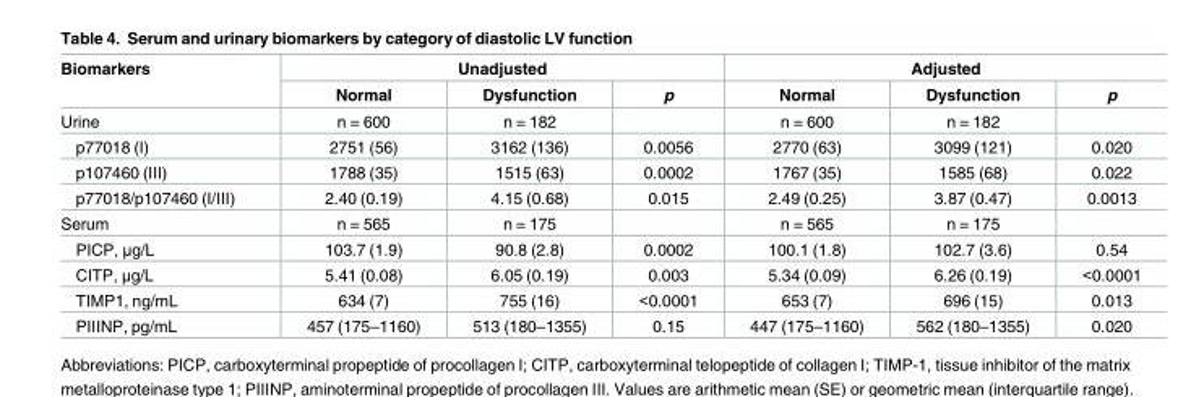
<table><thead><tr><td rowspan="2">Biomarkers</td><td colspan="3">Unadjusted</td><td colspan="3">Adjusted</td></tr><tr><td>Normal</td><td>Dysfunction</td><td>p</td><td>Normal</td><td>Dysfunction</td><td>p</td></tr></thead><tbody><tr><td>Urine</td><td>n = 600</td><td>n = 182</td><td></td><td>n = 600</td><td>n = 182</td><td></td></tr><tr><td>p77018 (I)</td><td>2751 (56)</td><td>3162 (136)</td><td>0.0056</td><td>2770 (63)</td><td>3099 (121)</td><td>0.020</td></tr><tr><td>p107460 (III)</td><td>1788 (35)</td><td>1515 (63)</td><td>0.0002</td><td>1767 (35)</td><td>1585 (68)</td><td>0.022</td></tr><tr><td>p77018/p107460 (I/III)</td><td>2.40 (0.19)</td><td>4.15 (0.68)</td><td>0.015</td><td>2.49 (0.25)</td><td>3.87 (0.47)</td><td>0.0013</td></tr><tr><td>Serum</td><td>n = 565</td><td>n = 175</td><td></td><td>n = 565</td><td>n = 175</td><td></td></tr><tr><td>PICP, μg/L</td><td>103.7 (1.9)</td><td>90.8 (2.8)</td><td>0.0002</td><td>100.1 (1.8)</td><td>102.7 (3.6)</td><td>0.54</td></tr><tr><td>CITP, μg/L</td><td>5.41 (0.08)</td><td>6.05 (0.19)</td><td>0.003</td><td>5.34 (0.09)</td><td>6.26 (0.19)</td><td>&lt;0.0001</td></tr><tr><td>TIMP1, ng/mL</td><td>634 (7)</td><td>755 (16)</td><td>&lt;0.0001</td><td>653 (7)</td><td>696 (15)</td><td>0.013</td></tr><tr><td>PIIINP, pg/mL</td><td>457 (175–1160)</td><td>513 (180–1355)</td><td>0.15</td><td>447 (175–1160)</td><td>562 (180–1355)</td><td>0.020</td></tr></tbody></table>